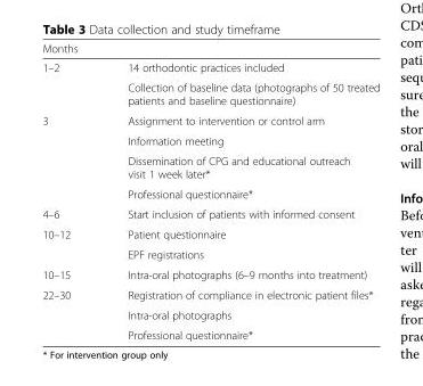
<table><thead><tr><td>Months</td><td></td></tr></thead><tbody><tr><td rowspan="2">1–2</td><td>14 orthodontic practices included</td></tr><tr><td>Collection of baseline data (photographs of 50 treated patients and baseline questionnaire)</td></tr><tr><td rowspan="4">3</td><td>Assignment to intervention or control arm</td></tr><tr><td>Information meeting</td></tr><tr><td>Dissemination of CPG and educational outreach visit 1 week later*</td></tr><tr><td>Professional questionnaire*</td></tr><tr><td>4–6</td><td>Start inclusion of patients with informed consent</td></tr><tr><td rowspan="2">10–12</td><td>Patient questionnaire</td></tr><tr><td>EPF registrations</td></tr><tr><td>10–15</td><td>Intra-oral photographs (6–9 months into treatment)</td></tr><tr><td rowspan="3">22–30</td><td>Registration of compliance in electronic patient files*</td></tr><tr><td>Intra-oral photographs</td></tr><tr><td>Professional questionnaire*</td></tr></tbody></table>